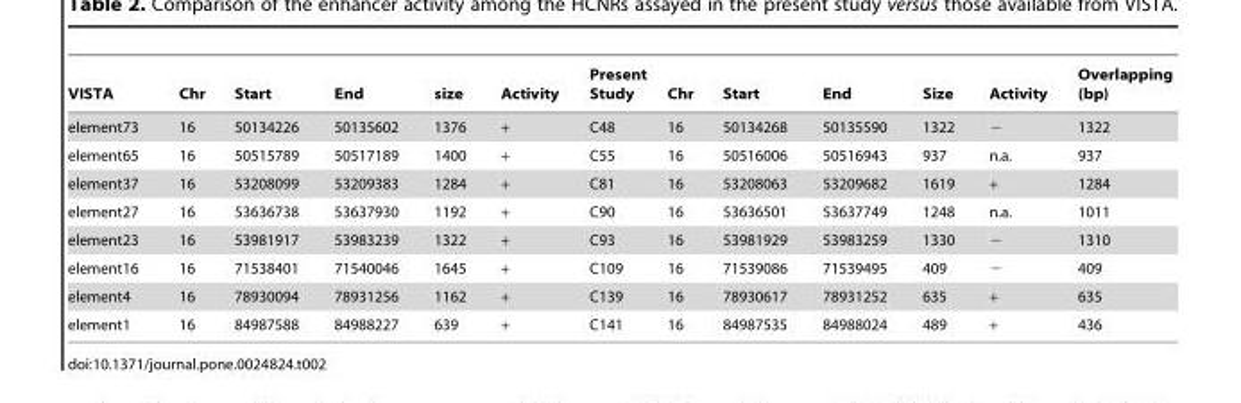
<table><thead><tr><td>VISTA</td><td>Chr</td><td>Start</td><td>End</td><td>size</td><td>Activity</td><td>Present Study</td><td>Chr</td><td>Start</td><td>End</td><td>Size</td><td>Activity</td><td>Overlapping (bp)</td></tr></thead><tbody><tr><td>element73</td><td>16</td><td>50134226</td><td>50135602</td><td>1376</td><td>+</td><td>C48</td><td>16</td><td>50134268</td><td>50135590</td><td>1322</td><td>−</td><td>1322</td></tr><tr><td>element65</td><td>16</td><td>50515789</td><td>50517189</td><td>1400</td><td>+</td><td>C55</td><td>16</td><td>50516006</td><td>50516943</td><td>937</td><td>n.a.</td><td>937</td></tr><tr><td>element37</td><td>16</td><td>53208099</td><td>53209383</td><td>1284</td><td>+</td><td>C81</td><td>16</td><td>53208063</td><td>53209682</td><td>1619</td><td>+</td><td>1284</td></tr><tr><td>element27</td><td>16</td><td>53636738</td><td>53637930</td><td>1192</td><td>+</td><td>C90</td><td>16</td><td>53636501</td><td>53637749</td><td>1248</td><td>n.a.</td><td>1011</td></tr><tr><td>element23</td><td>16</td><td>53981917</td><td>53983239</td><td>1322</td><td>+</td><td>C93</td><td>16</td><td>53981929</td><td>53983259</td><td>1330</td><td>−</td><td>1310</td></tr><tr><td>element16</td><td>16</td><td>71538401</td><td>71540046</td><td>1645</td><td>+</td><td>C109</td><td>16</td><td>71539086</td><td>71539495</td><td>409</td><td>−</td><td>409</td></tr><tr><td>element4</td><td>16</td><td>78930094</td><td>78931256</td><td>1162</td><td>+</td><td>C139</td><td>16</td><td>78930617</td><td>78931252</td><td>635</td><td>+</td><td>635</td></tr><tr><td>element1</td><td>16</td><td>84987588</td><td>84988227</td><td>639</td><td>+</td><td>C141</td><td>16</td><td>84987535</td><td>84988024</td><td>489</td><td>+</td><td>436</td></tr></tbody></table>